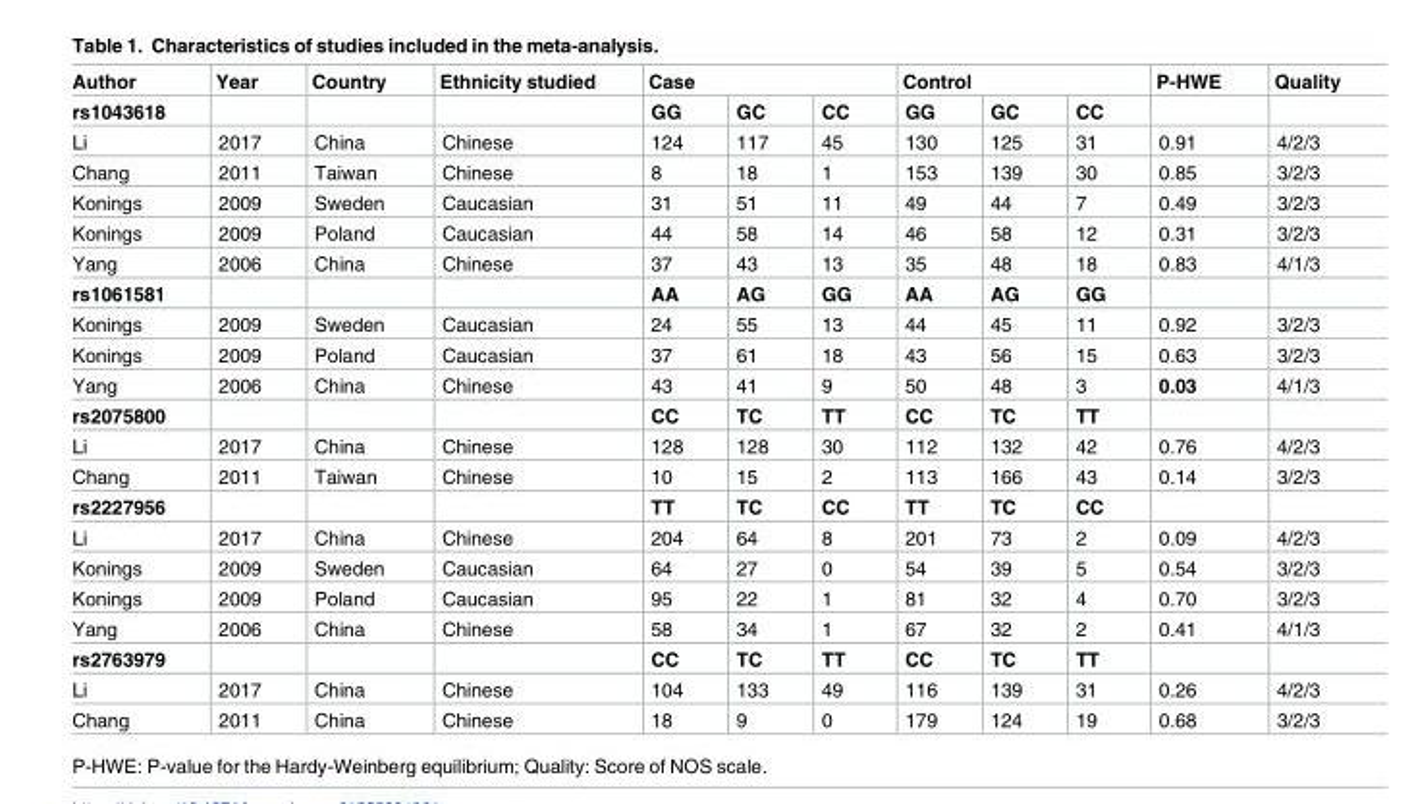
<table><thead><tr><td rowspan="2">Author rs1043618</td><td rowspan="2">Year</td><td rowspan="2">Country</td><td rowspan="2">Ethnicity studied</td><td colspan="3">Case</td><td colspan="3">Control</td><td rowspan="2">P-HWE</td><td rowspan="2">Quality</td></tr><tr><td>GG</td><td>GC</td><td>CC</td><td>GG</td><td>GC</td><td>CC</td></tr></thead><tbody><tr><td>Li</td><td>2017</td><td>China</td><td>Chinese</td><td>124</td><td>117</td><td>45</td><td>130</td><td>125</td><td>31</td><td>0.91</td><td>4/2/3</td></tr><tr><td>Chang</td><td>2011</td><td>Taiwan</td><td>Chinese</td><td>8</td><td>18</td><td>1</td><td>153</td><td>139</td><td>30</td><td>0.85</td><td>3/2/3</td></tr><tr><td>Konings</td><td>2009</td><td>Sweden</td><td>Caucasian</td><td>31</td><td>51</td><td>11</td><td>49</td><td>44</td><td>7</td><td>0.49</td><td>3/2/3</td></tr><tr><td>Konings</td><td>2009</td><td>Poland</td><td>Caucasian</td><td>44</td><td>58</td><td>14</td><td>46</td><td>58</td><td>12</td><td>0.31</td><td>3/2/3</td></tr><tr><td>Yang</td><td>2006</td><td>China</td><td>Chinese</td><td>37</td><td>43</td><td>13</td><td>35</td><td>48</td><td>18</td><td>0.83</td><td>4/1/3</td></tr><tr><td>rs1061581</td><td></td><td></td><td></td><td>AA</td><td>AG</td><td>GG</td><td>AA</td><td>AG</td><td>GG</td><td></td><td></td></tr><tr><td>Konings</td><td>2009</td><td>Sweden</td><td>Caucasian</td><td>24</td><td>55</td><td>13</td><td>44</td><td>45</td><td>11</td><td>0.92</td><td>3/2/3</td></tr><tr><td>Konings</td><td>2009</td><td>Poland</td><td>Caucasian</td><td>37</td><td>61</td><td>18</td><td>43</td><td>56</td><td>15</td><td>0.63</td><td>3/2/3</td></tr><tr><td>Yang</td><td>2006</td><td>China</td><td>Chinese</td><td>43</td><td>41</td><td>9</td><td>50</td><td>48</td><td>3</td><td>0.03</td><td>4/1/3</td></tr><tr><td>rs2075800</td><td></td><td></td><td></td><td>CC</td><td>TC</td><td>TT</td><td>CC</td><td>TC</td><td>TT</td><td></td><td></td></tr><tr><td>Li</td><td>2017</td><td>China</td><td>Chinese</td><td>128</td><td>128</td><td>30</td><td>112</td><td>132</td><td>42</td><td>0.76</td><td>4/2/3</td></tr><tr><td>Chang</td><td>2011</td><td>Taiwan</td><td>Chinese</td><td>10</td><td>15</td><td>2</td><td>113</td><td>166</td><td>43</td><td>0.14</td><td>3/2/3</td></tr><tr><td>rs2227956</td><td></td><td></td><td></td><td>TT</td><td>TC</td><td>CC</td><td>TT</td><td>TC</td><td>CC</td><td></td><td></td></tr><tr><td>Li</td><td>2017</td><td>China</td><td>Chinese</td><td>204</td><td>64</td><td>8</td><td>201</td><td>73</td><td>2</td><td>0.09</td><td>4/2/3</td></tr><tr><td>Konings</td><td>2009</td><td>Sweden</td><td>Caucasian</td><td>64</td><td>27</td><td>0</td><td>54</td><td>39</td><td>5</td><td>0.54</td><td>3/2/3</td></tr><tr><td>Konings</td><td>2009</td><td>Poland</td><td>Caucasian</td><td>95</td><td>22</td><td>1</td><td>81</td><td>32</td><td>4</td><td>0.70</td><td>3/2/3</td></tr><tr><td>Yang</td><td>2006</td><td>China</td><td>Chinese</td><td>58</td><td>34</td><td>1</td><td>67</td><td>32</td><td>2</td><td>0.41</td><td>4/1/3</td></tr><tr><td>rs2763979</td><td></td><td></td><td></td><td>CC</td><td>TC</td><td>TT</td><td>CC</td><td>TC</td><td>TT</td><td></td><td></td></tr><tr><td>Li</td><td>2017</td><td>China</td><td>Chinese</td><td>104</td><td>133</td><td>49</td><td>116</td><td>139</td><td>31</td><td>0.26</td><td>4/2/3</td></tr><tr><td>Chang</td><td>2011</td><td>China</td><td>Chinese</td><td>18</td><td>9</td><td>0</td><td>179</td><td>124</td><td>19</td><td>0.68</td><td>3/2/3</td></tr></tbody></table>